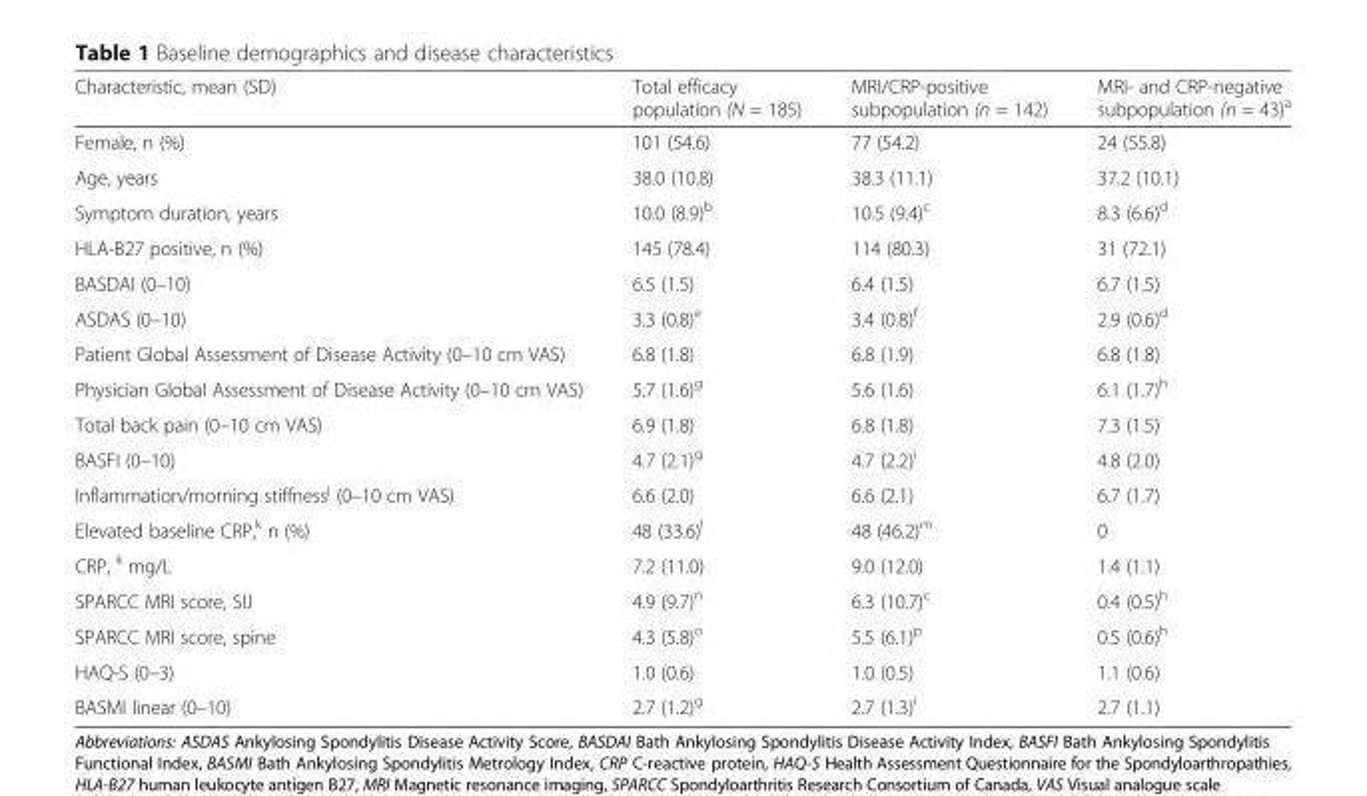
<table><thead><tr><td>Characteristic, mean (SD)</td><td>Total efficacy population (N = 185)</td><td>MRI/CRP-positive subpopulation (n = 142)</td><td>MRI- and CRP-negative subpopulation (n = 43)<sup>a</sup></td></tr></thead><tbody><tr><td>Female, n (%)</td><td>101 (54.6)</td><td>77 (54.2)</td><td>24 (55.8)</td></tr><tr><td>Age, years</td><td>38.0 (10.8)</td><td>38.3 (11.1)</td><td>37.2 (10.1)</td></tr><tr><td>Symptom duration, years</td><td>10.0 (8.9)<sup>b</sup></td><td>10.5 (9.4)<sup>c</sup></td><td>8.3 (6.6)<sup>d</sup></td></tr><tr><td>HLA-B27 positive, n (%)</td><td>145 (78.4)</td><td>114 (80.3)</td><td>31 (72.1)</td></tr><tr><td>BASDAI (0–10)</td><td>6.5 (1.5)</td><td>6.4 (1.5)</td><td>6.7 (1.5)</td></tr><tr><td>ASDAS (0–10)</td><td>3.3 (0.8)<sup>e</sup></td><td>3.4 (0.8)<sup>f</sup></td><td>2.9 (0.6)<sup>d</sup></td></tr><tr><td>Patient Global Assessment of Disease Activity (0–10 cm VAS)</td><td>6.8 (1.8)</td><td>6.8 (1.9)</td><td>6.8 (1.8)</td></tr><tr><td>Physician Global Assessment of Disease Activity (0–10 cm VAS)</td><td>5.7 (1.6)<sup>g</sup></td><td>5.6 (1.6)</td><td>6.1 (1.7)<sup>h</sup></td></tr><tr><td>Total back pain (0–10 cm VAS)</td><td>6.9 (1.8)</td><td>6.8 (1.8)</td><td>7.3 (1.5)</td></tr><tr><td>BASFI (0–10)</td><td>4.7 (2.1)<sup>g</sup></td><td>4.7 (2.2)<sup>i</sup></td><td>4.8 (2.0)</td></tr><tr><td>Inflammation/morning stiffness<sup>j</sup> (0–10 cm VAS)</td><td>6.6 (2.0)</td><td>6.6 (2.1)</td><td>6.7 (1.7)</td></tr><tr><td>Elevated baseline CRP,<sup>k</sup> n (%)</td><td>48 (33.6)<sup>l</sup></td><td>48 (46.2)<sup>m</sup></td><td>0</td></tr><tr><td>CRP, <sup>k</sup> mg/L</td><td>7.2 (11.0)</td><td>9.0 (12.0)</td><td>1.4 (1.1)</td></tr><tr><td>SPARCC MRI score, SIJ</td><td>4.9 (9.7)<sup>n</sup></td><td>6.3 (10.7)<sup>c</sup></td><td>0.4 (0.5)<sup>h</sup></td></tr><tr><td>SPARCC MRI score, spine</td><td>4.3 (5.8)<sup>o</sup></td><td>5.5 (6.1)<sup>p</sup></td><td>0.5 (0.6)<sup>h</sup></td></tr><tr><td>HAQ-S (0–3)</td><td>1.0 (0.6)</td><td>1.0 (0.5)</td><td>1.1 (0.6)</td></tr><tr><td>BASMI linear (0–10)</td><td>2.7 (1.2)<sup>g</sup></td><td>2.7 (1.3)<sup>i</sup></td><td>2.7 (1.1)</td></tr></tbody></table>